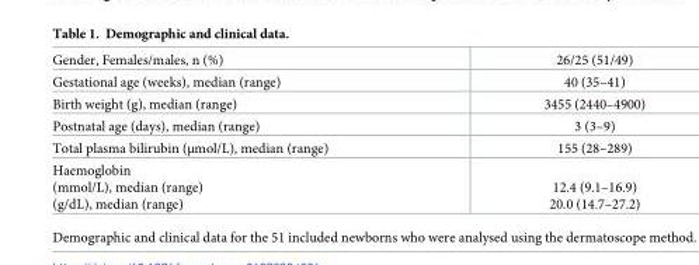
<table><tbody><tr><td>Gender, Females/males, n (%)</td><td>26/25 (51/49)</td></tr><tr><td>Gestational age (weeks), median (range)</td><td>40 (35–41)</td></tr><tr><td>Birth weight (g), median (range)</td><td>3455 (2440–4900)</td></tr><tr><td>Postnatal age (days), median (range)</td><td>3 (3–9)</td></tr><tr><td>Total plasma bilirubin (μmol/L), median (range)</td><td>155 (28–289)</td></tr><tr><td>Haemoglobin (mmol/L), median (range) (g/dL), median (range)</td><td>12.4 (9.1–16.9) 20.0 (14.7–27.2)</td></tr></tbody></table>